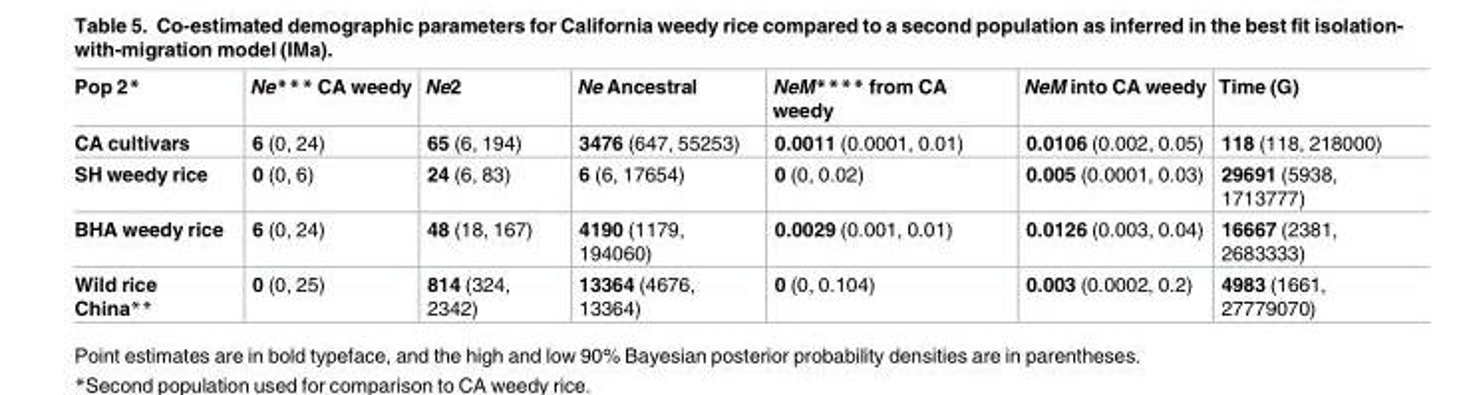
<table><thead><tr><td>Pop 2*</td><td>Ne*** CA weedy</td><td>Ne2</td><td>Ne Ancestral</td><td>NeM**** from CA weedy</td><td>NeM into CA weedy</td><td>Time (G)</td></tr></thead><tbody><tr><td>CA cultivars</td><td>6 (0, 24)</td><td>65 (6, 194)</td><td>3476 (647, 55253)</td><td>0.0011 (0.0001, 0.01)</td><td>0.0106 (0.002, 0.05)</td><td>118 (118, 218000)</td></tr><tr><td>SH weedy rice</td><td>0 (0, 6)</td><td>24 (6, 83)</td><td>6 (6, 17654)</td><td>0 (0, 0.02)</td><td>0.005 (0.0001, 0.03)</td><td>29691 (5938, 1713777)</td></tr><tr><td>BHA weedy rice</td><td>6 (0, 24)</td><td>48 (18, 167)</td><td>4190 (1179, 194060)</td><td>0.0029 (0.001, 0.01)</td><td>0.0126 (0.003, 0.04)</td><td>16667 (2381, 2683333)</td></tr><tr><td>Wild rice China**</td><td>0 (0, 25)</td><td>814 (324, 2342)</td><td>13364 (4676, 13364)</td><td>0 (0, 0.104)</td><td>0.003 (0.0002, 0.2)</td><td>4983 (1661, 27779070)</td></tr></tbody></table>